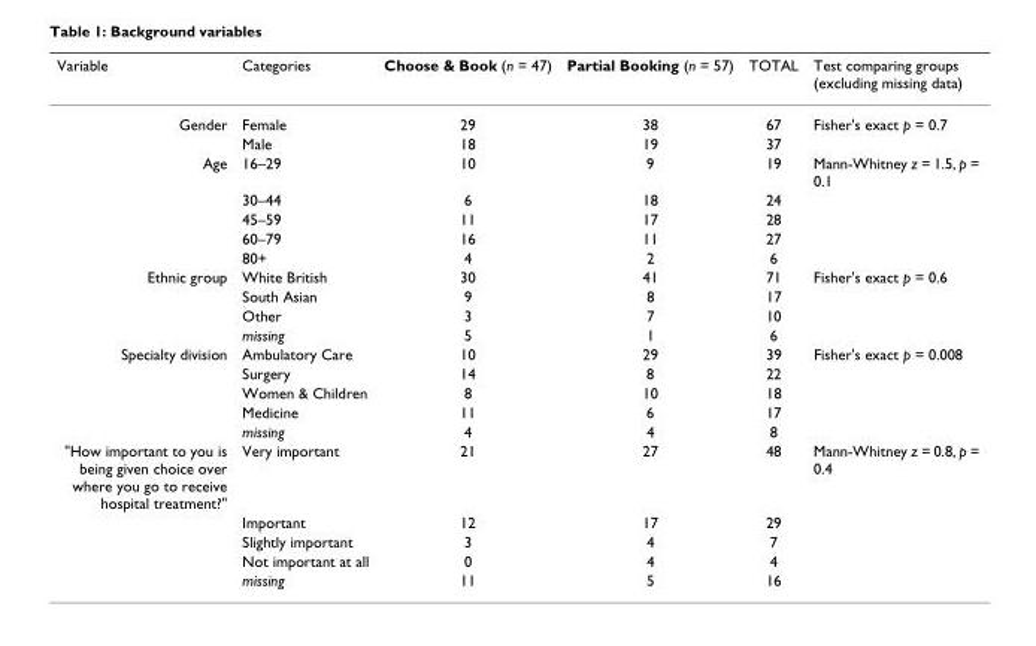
<table><thead><tr><td>Variable</td><td>Categories</td><td>Choose &amp; Book (n = 47)</td><td>Partial Booking (n = 57)</td><td>TOTAL</td><td>Test comparing groups (excluding missing data)</td></tr></thead><tbody><tr><td rowspan="2">Gender</td><td>Female</td><td>29</td><td>38</td><td>67</td><td>Fisher&#x27;s exact p = 0.7</td></tr><tr><td>Male</td><td>18</td><td>19</td><td>37</td><td></td></tr><tr><td rowspan="5">Age</td><td>16–29</td><td>10</td><td>9</td><td>19</td><td>Mann-Whitney z = 1.5, p = 0.1</td></tr><tr><td>30–44</td><td>6</td><td>18</td><td>24</td><td></td></tr><tr><td>45–59</td><td>11</td><td>17</td><td>28</td><td></td></tr><tr><td>60–79</td><td>16</td><td>11</td><td>27</td><td></td></tr><tr><td>80+</td><td>4</td><td>2</td><td>6</td><td></td></tr><tr><td rowspan="4">Ethnic group</td><td>White British</td><td>30</td><td>41</td><td>71</td><td>Fisher&#x27;s exact p = 0.6</td></tr><tr><td>South Asian</td><td>9</td><td>8</td><td>17</td><td></td></tr><tr><td>Other</td><td>3</td><td>7</td><td>10</td><td></td></tr><tr><td>missing</td><td>5</td><td>1</td><td>6</td><td></td></tr><tr><td rowspan="5">Specialty division</td><td>Ambulatory Care</td><td>10</td><td>29</td><td>39</td><td>Fisher&#x27;s exact p = 0.008</td></tr><tr><td>Surgery</td><td>14</td><td>8</td><td>22</td><td></td></tr><tr><td>Women &amp; Children</td><td>8</td><td>10</td><td>18</td><td></td></tr><tr><td>Medicine</td><td>11</td><td>6</td><td>17</td><td></td></tr><tr><td>missing</td><td>4</td><td>4</td><td>8</td><td></td></tr><tr><td rowspan="5">&quot;How important to you is being given choice over where you go to receive hospital treatment?&quot;</td><td>Very important</td><td>21</td><td>27</td><td>48</td><td>Mann-Whitney z = 0.8, p = 0.4</td></tr><tr><td>Important</td><td>12</td><td>17</td><td>29</td><td></td></tr><tr><td>Slightly important</td><td>3</td><td>4</td><td>7</td><td></td></tr><tr><td>Not important at all</td><td>0</td><td>4</td><td>4</td><td></td></tr><tr><td>missing</td><td>11</td><td>5</td><td>16</td><td></td></tr></tbody></table>